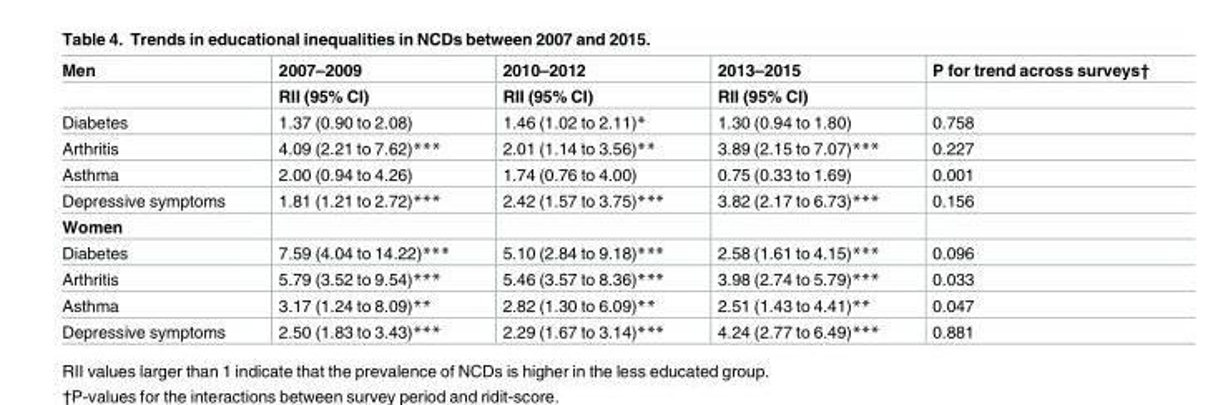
<table><tbody><tr><td rowspan="2">Men</td><td>2007–2009</td><td>2010–2012</td><td>2013–2015</td><td>P for trend across surveys†</td></tr><tr><td>RII (95% CI)</td><td>RII (95% CI)</td><td>RII (95% CI)</td><td></td></tr><tr><td>Diabetes</td><td>1.37 (0.90 to 2.08)</td><td>1.46 (1.02 to 2.11)*</td><td>1.30 (0.94 to 1.80)</td><td>0.758</td></tr><tr><td>Arthritis</td><td>4.09 (2.21 to 7.62)***</td><td>2.01 (1.14 to 3.56)**</td><td>3.89 (2.15 to 7.07)***</td><td>0.227</td></tr><tr><td>Asthma</td><td>2.00 (0.94 to 4.26)</td><td>1.74 (0.76 to 4.00)</td><td>0.75 (0.33 to 1.69)</td><td>0.001</td></tr><tr><td>Depressive symptoms</td><td>1.81 (1.21 to 2.72)***</td><td>2.42 (1.57 to 3.75)***</td><td>3.82 (2.17 to 6.73)***</td><td>0.156</td></tr><tr><td colspan="5">Women</td></tr><tr><td>Diabetes</td><td>7.59 (4.04 to 14.22)***</td><td>5.10 (2.84 to 9.18)***</td><td>2.58 (1.61 to 4.15)***</td><td>0.096</td></tr><tr><td>Arthritis</td><td>5.79 (3.52 to 9.54)***</td><td>5.46 (3.57 to 8.36)***</td><td>3.98 (2.74 to 5.79)***</td><td>0.033</td></tr><tr><td>Asthma</td><td>3.17 (1.24 to 8.09)**</td><td>2.82 (1.30 to 6.09)**</td><td>2.51 (1.43 to 4.41)**</td><td>0.047</td></tr><tr><td>Depressive symptoms</td><td>2.50 (1.83 to 3.43)***</td><td>2.29 (1.67 to 3.14)***</td><td>4.24 (2.77 to 6.49)***</td><td>0.881</td></tr></tbody></table>